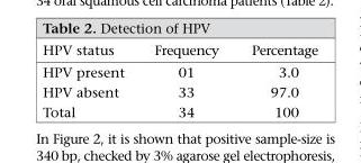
<table><thead><tr><td>HPV status</td><td>Frequency</td><td>Percentage</td></tr></thead><tbody><tr><td>HPV present</td><td>01</td><td>3.0</td></tr><tr><td>HPV absent</td><td>33</td><td>97.0</td></tr><tr><td>Total</td><td>34</td><td>100</td></tr></tbody></table>